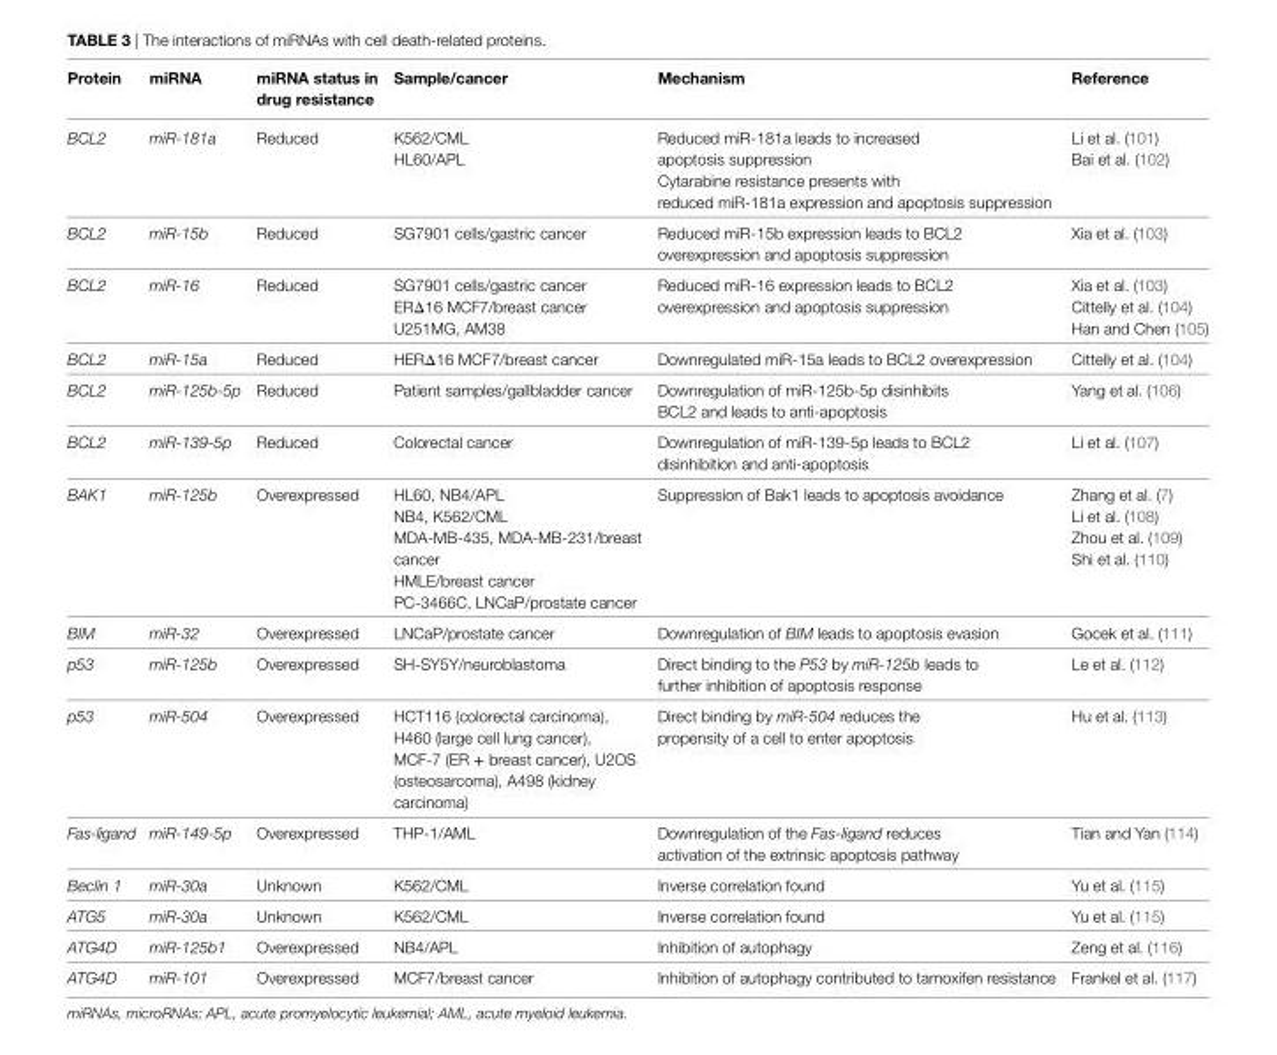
<table><thead><tr><td>Protein</td><td>miRNA</td><td>miRNA status in drug resistance</td><td>Sample/cancer</td><td>Mechanism</td><td>Reference</td></tr></thead><tbody><tr><td>BCL2</td><td>miR-181a</td><td>Reduced</td><td>K562/CML HL60/APL</td><td>Reduced miR-181a leads to increased apoptosis suppression Cytarabine resistance presents with reduced miR-181a expression and apoptosis suppression</td><td>Li et al. (101) Bai et al. (102)</td></tr><tr><td>BCL2</td><td>miR-15b</td><td>Reduced</td><td>SG7901 cells/gastric cancer</td><td>Reduced miR-15b expression leads to BCL2 overexpression and apoptosis suppression</td><td>Xia et al. (103)</td></tr><tr><td>BCL2</td><td>miR-16</td><td>Reduced</td><td>SG7901 cells/gastric cancer ERΔ16 MCF7/breast cancer U251MG, AM38</td><td>Reduced miR-16 expression leads to BCL2 overexpression and apoptosis suppression</td><td>Xia et al. (103) Cittelly et al. (104) Han and Chen (105)</td></tr><tr><td>BCL2</td><td>miR-15a</td><td>Reduced</td><td>HERΔ16 MCF7/breast cancer</td><td>Downregulated miR-15a leads to BCL2 overexpression</td><td>Cittelly et al. (104)</td></tr><tr><td>BCL2</td><td>miR-125b-5p</td><td>Reduced</td><td>Patient samples/gallbladder cancer</td><td>Downregulation of miR-125b-5p disinhibits BCL2 and leads to anti-apoptosis</td><td>Yang et al. (106)</td></tr><tr><td>BCL2</td><td>miR-139-5p</td><td>Reduced</td><td>Colorectal cancer</td><td>Downregulation of miR-139-5p leads to BCL2 disinhibition and anti-apoptosis</td><td>Li et al. (107)</td></tr><tr><td>BAK1</td><td>miR-125b</td><td>Overexpressed</td><td>HL60, NB4/APL NB4, K562/CML MDA-MB-435, MDA-MB-231/breast cancer HMLE/breast cancer PC-3466C, LNCaP/prostate cancer</td><td>Suppression of Bak1 leads to apoptosis avoidance</td><td>Zhang et al. (7) Li et al. (108) Zhou et al. (109) Shi et al. (110)</td></tr><tr><td>BIM</td><td>miR-32</td><td>Overexpressed</td><td>LNCaP/prostate cancer</td><td>Downregulation of BIM leads to apoptosis evasion</td><td>Gocek et al. (111)</td></tr><tr><td>p53</td><td>miR-125b</td><td>Overexpressed</td><td>SH-SY5Y/neuroblastoma</td><td>Direct binding to the P53 by miR-125b leads to further inhibition of apoptosis response</td><td>Le et al. (112)</td></tr><tr><td>p53</td><td>miR-504</td><td>Overexpressed</td><td>HCT116 (colorectal carcinoma), H460 (large cell lung cancer), MCF-7 (ER + breast cancer), U2OS (osteosarcoma), A498 (kidney carcinoma)</td><td>Direct binding by miR-504 reduces the propensity of a cell to enter apoptosis</td><td>Hu et al. (113)</td></tr><tr><td>Fas-ligand</td><td>miR-149-5p</td><td>Overexpressed</td><td>THP-1/AML</td><td>Downregulation of the Fas-ligand reduces activation of the extrinsic apoptosis pathway</td><td>Tian and Yan (114)</td></tr><tr><td>Beclin 1</td><td>miR-30a</td><td>Unknown</td><td>K562/CML</td><td>Inverse correlation found</td><td>Yu et al. (115)</td></tr><tr><td>ATG5</td><td>miR-30a</td><td>Unknown</td><td>K562/CML</td><td>Inverse correlation found</td><td>Yu et al. (115)</td></tr><tr><td>ATG4D</td><td>miR-125b1</td><td>Overexpressed</td><td>NB4/APL</td><td>Inhibition of autophagy</td><td>Zeng et al. (116)</td></tr><tr><td>ATG4D</td><td>miR-101</td><td>Overexpressed</td><td>MCF7/breast cancer</td><td>Inhibition of autophagy contributed to tamoxifen resistance</td><td>Frankel et al. (117)</td></tr></tbody></table>